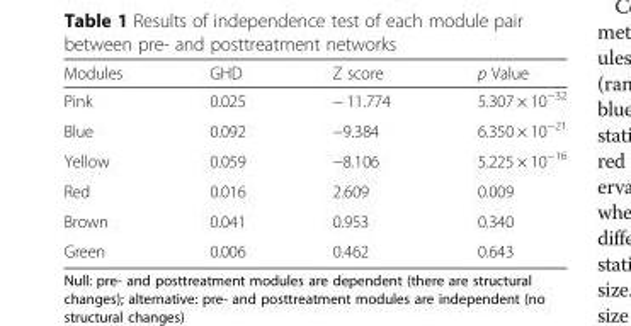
<table><thead><tr><td>Modules</td><td>GHD</td><td>Z score</td><td>p Value</td></tr></thead><tbody><tr><td>Pink</td><td>0.025</td><td>− 11.774</td><td>5.307 × 10<sup>−32</sup></td></tr><tr><td>Blue</td><td>0.092</td><td>−9.384</td><td>6.350 × 10<sup>−21</sup></td></tr><tr><td>Yellow</td><td>0.059</td><td>−8.106</td><td>5.225 × 10<sup>−16</sup></td></tr><tr><td>Red</td><td>0.016</td><td>2.609</td><td>0.009</td></tr><tr><td>Brown</td><td>0.041</td><td>0.953</td><td>0.340</td></tr><tr><td>Green</td><td>0.006</td><td>0.462</td><td>0.643</td></tr></tbody></table>